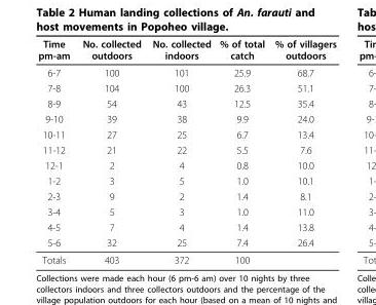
<table><thead><tr><td>Time pm-am</td><td>No. collected outdoors</td><td>No. collected indoors</td><td>% of total catch</td><td>% of villagers outdoors</td></tr></thead><tbody><tr><td>6-7</td><td>100</td><td>101</td><td>25.9</td><td>68.7</td></tr><tr><td>7-8</td><td>104</td><td>100</td><td>26.3</td><td>51.1</td></tr><tr><td>8-9</td><td>54</td><td>43</td><td>12.5</td><td>35.4</td></tr><tr><td>9-10</td><td>39</td><td>38</td><td>9.9</td><td>24.0</td></tr><tr><td>10-11</td><td>27</td><td>25</td><td>6.7</td><td>13.4</td></tr><tr><td>11-12</td><td>21</td><td>22</td><td>5.5</td><td>7.6</td></tr><tr><td>12-1</td><td>2</td><td>4</td><td>0.8</td><td>10.0</td></tr><tr><td>1-2</td><td>3</td><td>5</td><td>1.0</td><td>10.1</td></tr><tr><td>2-3</td><td>9</td><td>2</td><td>1.4</td><td>8.1</td></tr><tr><td>3-4</td><td>5</td><td>3</td><td>1.0</td><td>11.0</td></tr><tr><td>4-5</td><td>7</td><td>4</td><td>1.4</td><td>13.8</td></tr><tr><td>5-6</td><td>32</td><td>25</td><td>7.4</td><td>26.4</td></tr><tr><td>Totals</td><td>403</td><td>372</td><td>100</td><td></td></tr></tbody></table>